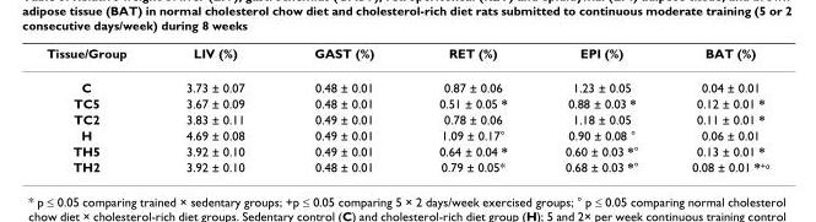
<table><thead><tr><td>Tissue/Group</td><td>LIV (%)</td><td>GAST (%)</td><td>RET (%)</td><td>EPI (%)</td><td>BAT (%)</td></tr></thead><tbody><tr><td>C</td><td>3.73 ± 0.07</td><td>0.48 ± 0.01</td><td>0.87 ± 0.06</td><td>1.23 ± 0.05</td><td>0.04 ± 0.01</td></tr><tr><td>TC5</td><td>3.67 ± 0.09</td><td>0.48 ± 0.01</td><td>0.51 ± 0.05 *</td><td>0.88 ± 0.03 *</td><td>0.12 ± 0.01 *</td></tr><tr><td>TC2</td><td>3.83 ± 0.11</td><td>0.49 ± 0.01</td><td>0.78 ± 0.06</td><td>1.18 ± 0.05</td><td>0.11 ± 0.01 *</td></tr><tr><td>H</td><td>4.69 ± 0.08</td><td>0.49 ± 0.01</td><td>1.09 ± 0.17°</td><td>0.90 ± 0.08 °</td><td>0.06 ± 0.01</td></tr><tr><td>TH5</td><td>3.92 ± 0.10</td><td>0.49 ± 0.01</td><td>0.64 ± 0.04 *</td><td>0.60 ± 0.03 *°</td><td>0.13 ± 0.01 *</td></tr><tr><td>TH2</td><td>3.92 ± 0.10</td><td>0.48 ± 0.01</td><td>0.79 ± 0.05*</td><td>0.68 ± 0.03 *°</td><td>0.08 ± 0.01 *<sup>+o</sup></td></tr></tbody></table>